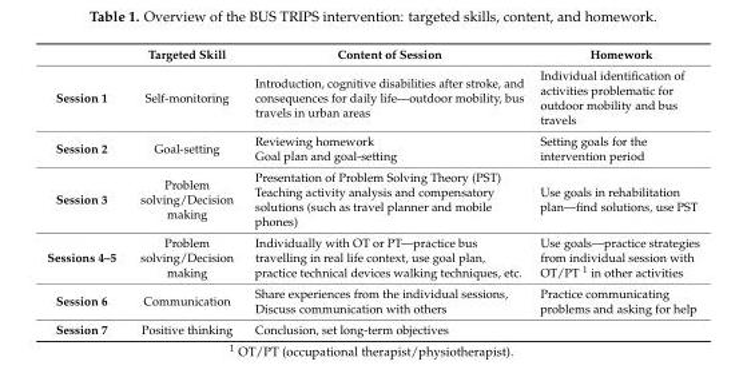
<table><thead><tr><td></td><td>Targeted Skill</td><td>Content of Session</td><td>Homework</td></tr></thead><tbody><tr><td>Session 1</td><td>Self-monitoring</td><td>Introduction, cognitive disabilities after stroke, and consequences for daily life—outdoor mobility, bus travels in urban areas</td><td>Individual identification of activities problematic for outdoor mobility and bus travels</td></tr><tr><td>Session 2</td><td>Goal-setting</td><td>Reviewing homework Goal plan and goal-setting</td><td>Setting goals for the intervention period</td></tr><tr><td>Session 3</td><td>Problem solving/Decision making</td><td>Presentation of Problem Solving Theory (PST) Teaching activity analysis and compensatory solutions (such as travel planner and mobile phones)</td><td>Use goals in rehabilitation plan—find solutions, use PST</td></tr><tr><td>Sessions 4–5</td><td>Problem solving/Decision making</td><td>Individually with OT or PT—practice bus travelling in real life context, use goal plan, practice technical devices walking techniques, etc.</td><td>Use goals—practice strategies from individual session with OT/PT <sup>1</sup> in other activities</td></tr><tr><td>Session 6</td><td>Communication</td><td>Share experiences from the individual sessions, Discuss communication with others</td><td>Practice communicating problems and asking for help</td></tr><tr><td>Session 7</td><td>Positive thinking</td><td>Conclusion, set long-term objectives</td><td></td></tr></tbody></table>